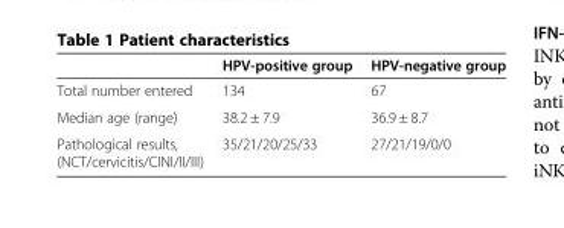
<table><thead><tr><td></td><td>HPV-positive group</td><td>HPV-negative group</td></tr></thead><tbody><tr><td>Total number entered</td><td>134</td><td>67</td></tr><tr><td>Median age (range)</td><td>38.2 ± 7.9</td><td>36.9 ± 8.7</td></tr><tr><td>Pathological results, (NCT/cervicitis/CINI/II/III)</td><td>35/21/20/25/33</td><td>27/21/19/0/0</td></tr></tbody></table>